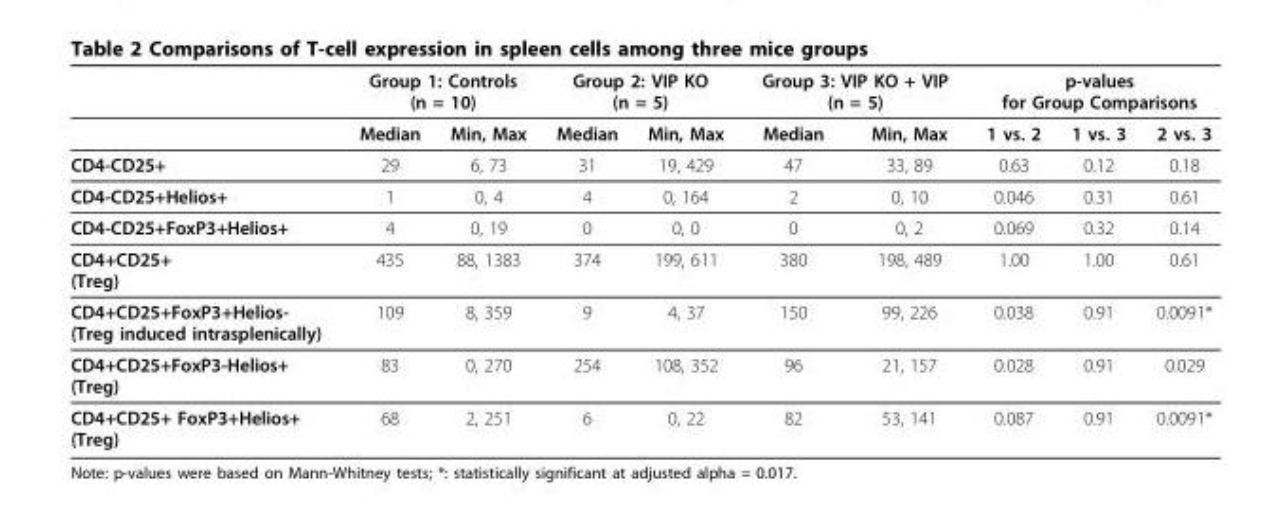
<table><thead><tr><td rowspan="2"></td><td colspan="2">Group 1: Controls (n = 10)</td><td colspan="2">Group 2: VIP KO (n = 5)</td><td colspan="2">Group 3: VIP KO + VIP (n = 5)</td><td colspan="3">p-values for Group Comparisons</td></tr><tr><td>Median</td><td>Min, Max</td><td>Median</td><td>Min, Max</td><td>Median</td><td>Min, Max</td><td>1 vs. 2</td><td>1 vs. 3</td><td>2 vs. 3</td></tr></thead><tbody><tr><td>CD4-CD25+</td><td>29</td><td>6, 73</td><td>31</td><td>19, 429</td><td>47</td><td>33, 89</td><td>0.63</td><td>0.12</td><td>0.18</td></tr><tr><td>CD4-CD25+Helios+</td><td>1</td><td>0, 4</td><td>4</td><td>0, 164</td><td>2</td><td>0, 10</td><td>0.046</td><td>0.31</td><td>0.61</td></tr><tr><td>CD4-CD25+FoxP3+Helios+</td><td>4</td><td>0, 19</td><td>0</td><td>0, 0</td><td>0</td><td>0, 2</td><td>0.069</td><td>0.32</td><td>0.14</td></tr><tr><td>CD4+CD25+ (Treg)</td><td>435</td><td>88, 1383</td><td>374</td><td>199, 611</td><td>380</td><td>198, 489</td><td>1.00</td><td>1.00</td><td>0.61</td></tr><tr><td>CD4+CD25+FoxP3+Helios- (Treg induced intrasplenically)</td><td>109</td><td>8, 359</td><td>9</td><td>4, 37</td><td>150</td><td>99, 226</td><td>0.038</td><td>0.91</td><td>0.0091*</td></tr><tr><td>CD4+CD25+FoxP3-Helios+ (Treg)</td><td>83</td><td>0, 270</td><td>254</td><td>108, 352</td><td>96</td><td>21, 157</td><td>0.028</td><td>0.91</td><td>0.029</td></tr><tr><td>CD4+CD25+ FoxP3+Helios+ (Treg)</td><td>68</td><td>2, 251</td><td>6</td><td>0, 22</td><td>82</td><td>53, 141</td><td>0.087</td><td>0.91</td><td>0.0091*</td></tr></tbody></table>